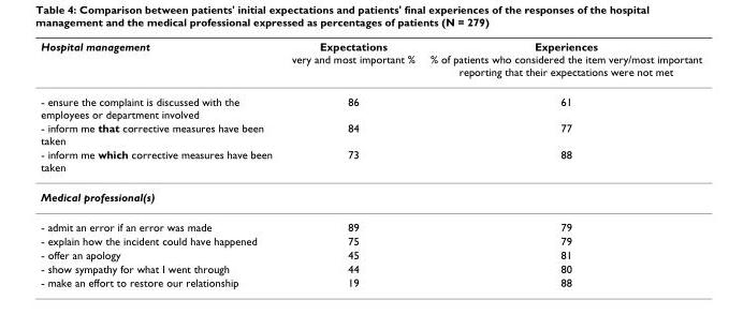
<table><thead><tr><td>Hospital management</td><td>Expectations very and most important %</td><td>Experiences % of patients who considered the item very/most important reporting that their expectations were not met</td></tr></thead><tbody><tr><td>- ensure the complaint is discussed with the employees or department involved</td><td>86</td><td>61</td></tr><tr><td>- inform me that corrective measures have been taken</td><td>84</td><td>77</td></tr><tr><td>- inform me which corrective measures have been taken</td><td>73</td><td>88</td></tr><tr><td colspan="3">Medical professional(s)</td></tr><tr><td>- admit an error if an error was made</td><td>89</td><td>79</td></tr><tr><td>- explain how the incident could have happened</td><td>75</td><td>79</td></tr><tr><td>- offer an apology</td><td>45</td><td>81</td></tr><tr><td>- show sympathy for what I went through</td><td>44</td><td>80</td></tr><tr><td>- make an effort to restore our relationship</td><td>19</td><td>88</td></tr></tbody></table>